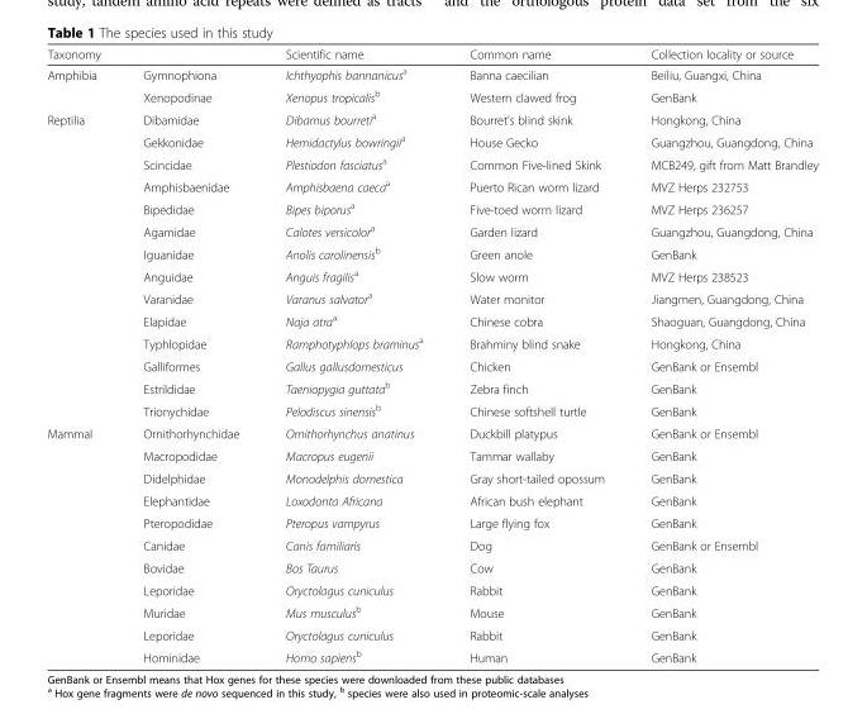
<table><thead><tr><td colspan="2">Taxonomy</td><td rowspan="2">Scientific name Ichthyophis bannanicus<sup>a</sup></td><td rowspan="2">Common name Banna caecilian</td><td rowspan="2">Collection locality or source Beiliu, Guangxi, China</td></tr><tr><td>Amphibia</td><td>Gymnophiona</td></tr></thead><tbody><tr><td></td><td>Xenopodinae</td><td>Xenopus tropicalis<sup>b</sup></td><td>Western clawed frog</td><td>GenBank</td></tr><tr><td rowspan="14">Reptilia</td><td>Dibamidae</td><td>Dibamus bourreti<sup>a</sup></td><td>Bourret&#x27;s blind skink</td><td>Hongkong, China</td></tr><tr><td>Gekkonidae</td><td>Hemidactylus bowringii<sup>a</sup></td><td>House Gecko</td><td>Guangzhou, Guangdong, China</td></tr><tr><td>Scincidae</td><td>Plestiodon fasciatus<sup>a</sup></td><td>Common Five-lined Skink</td><td>MCB249, gift from Matt Brandley</td></tr><tr><td>Amphisbaenidae</td><td>Amphisbaena caeca<sup>a</sup></td><td>Puerto Rican worm lizard</td><td>MVZ Herps 232753</td></tr><tr><td>Bipedidae</td><td>Bipes biporus<sup>a</sup></td><td>Five-toed worm lizard</td><td>MVZ Herps 236257</td></tr><tr><td>Agamidae</td><td>Calotes versicolor<sup>a</sup></td><td>Garden lizard</td><td>Guangzhou, Guangdong, China</td></tr><tr><td>Iguanidae</td><td>Anolis carolinensis<sup>b</sup></td><td>Green anole</td><td>GenBank</td></tr><tr><td>Anguidae</td><td>Anguis fragilis<sup>a</sup></td><td>Slow worm</td><td>MVZ Herps 238523</td></tr><tr><td>Varanidae</td><td>Varanus salvator<sup>a</sup></td><td>Water monitor</td><td>Jiangmen, Guangdong, China</td></tr><tr><td>Elapidae</td><td>Naja atra<sup>a</sup></td><td>Chinese cobra</td><td>Shaoguan, Guangdong, China</td></tr><tr><td>Typhlopidae</td><td>Ramphotyphlops braminus<sup>a</sup></td><td>Brahminy blind snake</td><td>Hongkong, China</td></tr><tr><td>Galliformes</td><td>Gallus gallusdomesticus</td><td>Chicken</td><td>GenBank or Ensembl</td></tr><tr><td>Estrildidae</td><td>Taeniopygia guttata<sup>b</sup></td><td>Zebra finch</td><td>GenBank</td></tr><tr><td>Trionychidae</td><td>Pelodiscus sinensis<sup>b</sup></td><td>Chinese softshell turtle</td><td>GenBank</td></tr><tr><td rowspan="11">Mammal</td><td>Ornithorhynchidae</td><td>Ornithorhynchus anatinus</td><td>Duckbill platypus</td><td>GenBank or Ensembl</td></tr><tr><td>Macropodidae</td><td>Macropus eugenii</td><td>Tammar wallaby</td><td>GenBank</td></tr><tr><td>Didelphidae</td><td>Monodelphis domestica</td><td>Gray short-tailed opossum</td><td>GenBank</td></tr><tr><td>Elephantidae</td><td>Loxodonta Africana</td><td>African bush elephant</td><td>GenBank</td></tr><tr><td>Pteropodidae</td><td>Pteropus vampyrus</td><td>Large flying fox</td><td>GenBank</td></tr><tr><td>Canidae</td><td>Canis familiaris</td><td>Dog</td><td>GenBank or Ensembl</td></tr><tr><td>Bovidae</td><td>Bos Taurus</td><td>Cow</td><td>GenBank</td></tr><tr><td>Leporidae</td><td>Oryctolagus cuniculus</td><td>Rabbit</td><td>GenBank</td></tr><tr><td>Muridae</td><td>Mus musculus<sup>b</sup></td><td>Mouse</td><td>GenBank</td></tr><tr><td>Leporidae</td><td>Oryctolagus cuniculus</td><td>Rabbit</td><td>GenBank</td></tr><tr><td>Hominidae</td><td>Homo sapiens<sup>b</sup></td><td>Human</td><td>GenBank</td></tr></tbody></table>